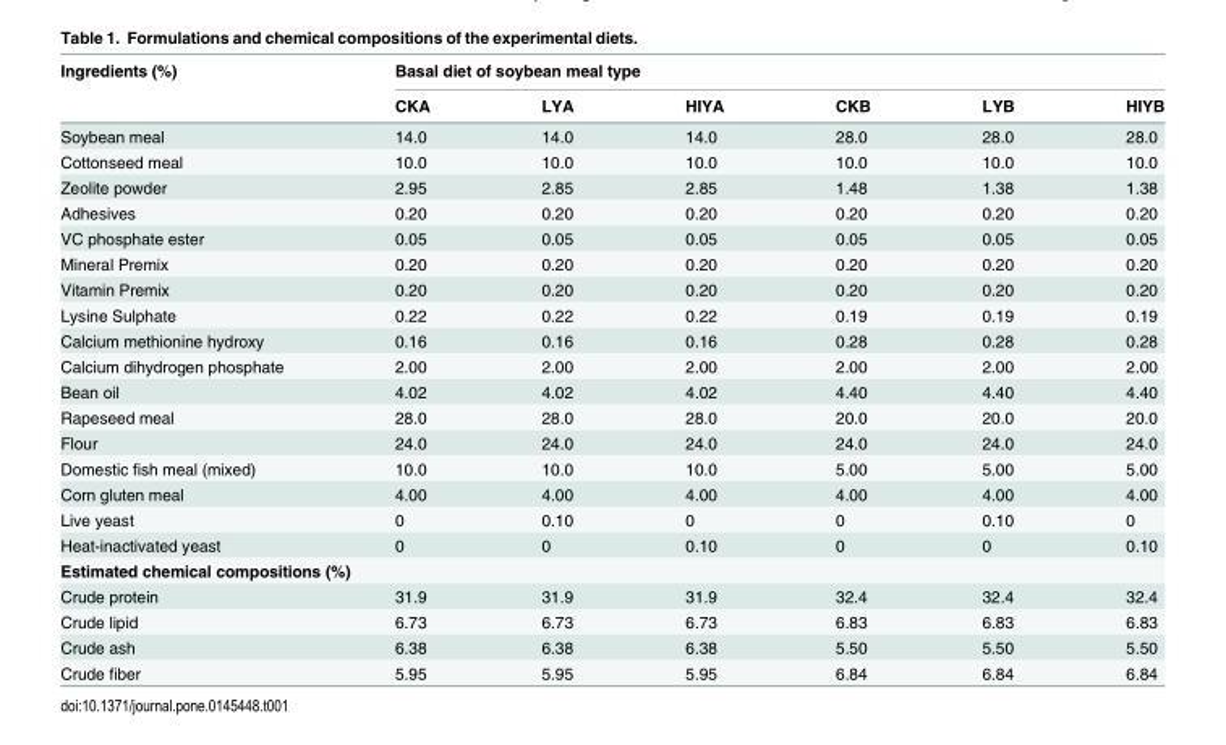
<table><thead><tr><td rowspan="2">Ingredients (%)</td><td colspan="6">Basal diet of soybean meal type</td></tr><tr><td>CKA</td><td>LYA</td><td>HIYA</td><td>CKB</td><td>LYB</td><td>HIYB</td></tr></thead><tbody><tr><td>Soybean meal</td><td>14.0</td><td>14.0</td><td>14.0</td><td>28.0</td><td>28.0</td><td>28.0</td></tr><tr><td>Cottonseed meal</td><td>10.0</td><td>10.0</td><td>10.0</td><td>10.0</td><td>10.0</td><td>10.0</td></tr><tr><td>Zeolite powder</td><td>2.95</td><td>2.85</td><td>2.85</td><td>1.48</td><td>1.38</td><td>1.38</td></tr><tr><td>Adhesives</td><td>0.20</td><td>0.20</td><td>0.20</td><td>0.20</td><td>0.20</td><td>0.20</td></tr><tr><td>VC phosphate ester</td><td>0.05</td><td>0.05</td><td>0.05</td><td>0.05</td><td>0.05</td><td>0.05</td></tr><tr><td>Mineral Premix</td><td>0.20</td><td>0.20</td><td>0.20</td><td>0.20</td><td>0.20</td><td>0.20</td></tr><tr><td>Vitamin Premix</td><td>0.20</td><td>0.20</td><td>0.20</td><td>0.20</td><td>0.20</td><td>0.20</td></tr><tr><td>Lysine Sulphate</td><td>0.22</td><td>0.22</td><td>0.22</td><td>0.19</td><td>0.19</td><td>0.19</td></tr><tr><td>Calcium methionine hydroxy</td><td>0.16</td><td>0.16</td><td>0.16</td><td>0.28</td><td>0.28</td><td>0.28</td></tr><tr><td>Calcium dihydrogen phosphate</td><td>2.00</td><td>2.00</td><td>2.00</td><td>2.00</td><td>2.00</td><td>2.00</td></tr><tr><td>Bean oil</td><td>4.02</td><td>4.02</td><td>4.02</td><td>4.40</td><td>4.40</td><td>4.40</td></tr><tr><td>Rapeseed meal</td><td>28.0</td><td>28.0</td><td>28.0</td><td>20.0</td><td>20.0</td><td>20.0</td></tr><tr><td>Flour</td><td>24.0</td><td>24.0</td><td>24.0</td><td>24.0</td><td>24.0</td><td>24.0</td></tr><tr><td>Domestic fish meal (mixed)</td><td>10.0</td><td>10.0</td><td>10.0</td><td>5.00</td><td>5.00</td><td>5.00</td></tr><tr><td>Corn gluten meal</td><td>4.00</td><td>4.00</td><td>4.00</td><td>4.00</td><td>4.00</td><td>4.00</td></tr><tr><td>Live yeast</td><td>0</td><td>0.10</td><td>0</td><td>0</td><td>0.10</td><td>0</td></tr><tr><td>Heat-inactivated yeast</td><td>0</td><td>0</td><td>0.10</td><td>0</td><td>0</td><td>0.10</td></tr><tr><td colspan="7">Estimated chemical compositions (%)</td></tr><tr><td>Crude protein</td><td>31.9</td><td>31.9</td><td>31.9</td><td>32.4</td><td>32.4</td><td>32.4</td></tr><tr><td>Crude lipid</td><td>6.73</td><td>6.73</td><td>6.73</td><td>6.83</td><td>6.83</td><td>6.83</td></tr><tr><td>Crude ash</td><td>6.38</td><td>6.38</td><td>6.38</td><td>5.50</td><td>5.50</td><td>5.50</td></tr><tr><td>Crude fiber</td><td>5.95</td><td>5.95</td><td>5.95</td><td>6.84</td><td>6.84</td><td>6.84</td></tr></tbody></table>